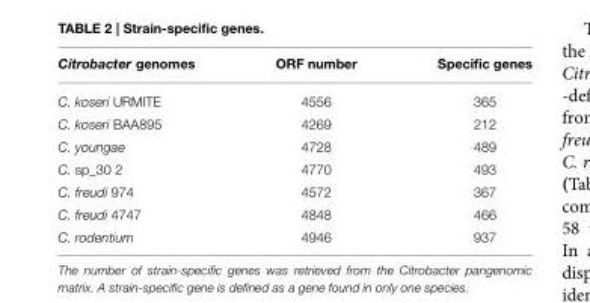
<table><thead><tr><td>Citrobacter genomes</td><td>ORF number</td><td>Specific genes</td></tr></thead><tbody><tr><td>C. koseri URMITE</td><td>4556</td><td>365</td></tr><tr><td>C. koseri BAA895</td><td>4269</td><td>212</td></tr><tr><td>C. youngae</td><td>4728</td><td>489</td></tr><tr><td>C. sp_30 2</td><td>4770</td><td>493</td></tr><tr><td>C. freudi 974</td><td>4572</td><td>367</td></tr><tr><td>C. freudi 4747</td><td>4848</td><td>466</td></tr><tr><td>C. rodentium</td><td>4946</td><td>937</td></tr></tbody></table>